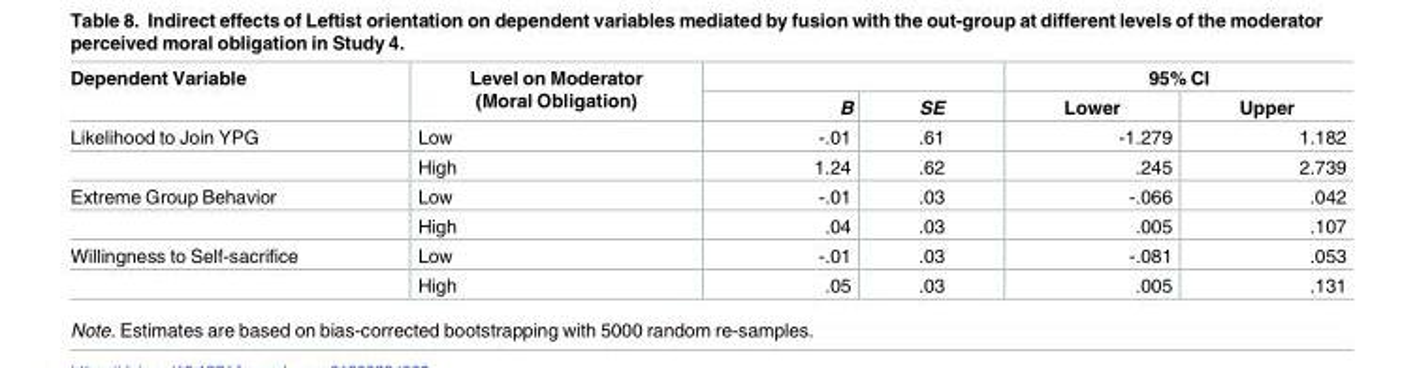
<table><thead><tr><td rowspan="2">Dependent Variable</td><td rowspan="2">Level on Moderator (Moral Obligation)</td><td rowspan="2">B</td><td rowspan="2">SE</td><td colspan="2">95% CI</td></tr><tr><td>Lower</td><td>Upper</td></tr></thead><tbody><tr><td rowspan="2">Likelihood to Join YPG</td><td>Low</td><td>-.01</td><td>.61</td><td>-1.279</td><td>1.182</td></tr><tr><td>High</td><td>1.24</td><td>.62</td><td>.245</td><td>2.739</td></tr><tr><td rowspan="2">Extreme Group Behavior</td><td>Low</td><td>-.01</td><td>.03</td><td>-.066</td><td>.042</td></tr><tr><td>High</td><td>.04</td><td>.03</td><td>.005</td><td>.107</td></tr><tr><td rowspan="2">Willingness to Self-sacrifice</td><td>Low</td><td>-.01</td><td>.03</td><td>-.081</td><td>.053</td></tr><tr><td>High</td><td>.05</td><td>.03</td><td>.005</td><td>.131</td></tr></tbody></table>